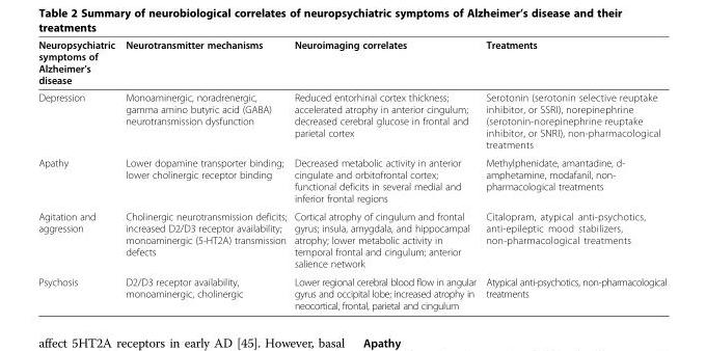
<table><thead><tr><td>Neuropsychiatric symptoms of Alzheimer’s disease</td><td>Neurotransmitter mechanisms</td><td>Neuroimaging correlates</td><td>Treatments</td></tr></thead><tbody><tr><td>Depression</td><td>Monoaminergic, noradrenergic, gamma amino butyric acid (GABA) neurotransmission dysfunction</td><td>Reduced entorhinal cortex thickness; accelerated atrophy in anterior cingulum; decreased cerebral glucose in frontal and parietal cortex</td><td>Serotonin (serotonin selective reuptake inhibitor, or SSRI), norepinephrine (serotonin-norepinephrine reuptake inhibitor, or SNRI), non-pharmacological treatments</td></tr><tr><td>Apathy</td><td>Lower dopamine transporter binding; lower cholinergic receptor binding</td><td>Decreased metabolic activity in anterior cingulate and orbitofrontal cortex; functional deficits in several medial and inferior frontal regions</td><td>Methylphenidate, amantadine, d- amphetamine, modafanil, non- pharmacological treatments</td></tr><tr><td>Agitation and aggression</td><td>Cholinergic neurotransmission deficits; increased D2/D3 receptor availability; monoaminergic (5-HT2A) transmission defects</td><td>Cortical atrophy of cingulum and frontal gyrus; insula, amygdala, and hippocampal atrophy; lower metabolic activity in temporal frontal and cingulum; anterior salience network</td><td>Citalopram, atypical anti-psychotics, anti-epileptic mood stabilizers, non-pharmacological treatments</td></tr><tr><td>Psychosis</td><td>D2/D3 receptor availability, monoaminergic, cholinergic</td><td>Lower regional cerebral blood flow in angular gyrus and occipital lobe; increased atrophy in neocortical, frontal, parietal and cingulum</td><td>Atypical anti-psychotics, non-pharmacological treatments</td></tr></tbody></table>